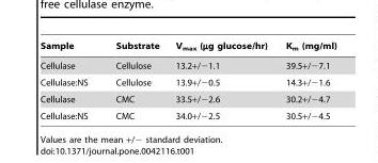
<table><thead><tr><td>Sample</td><td>Substrate</td><td>V<sub>max</sub> (µg glucose/hr)</td><td>K<sub>m</sub> (mg/ml)</td></tr></thead><tbody><tr><td>Cellulase</td><td>Cellulose</td><td>13.2+/−1.1</td><td>39.5+/−7.1</td></tr><tr><td>Cellulase:NS</td><td>Cellulose</td><td>13.9+/−0.5</td><td>14.3+/−1.6</td></tr><tr><td>Cellulase</td><td>CMC</td><td>33.5+/−2.6</td><td>30.2+/−4.7</td></tr><tr><td>Cellulase:NS</td><td>CMC</td><td>34.0+/−2.5</td><td>30.5+/−4.5</td></tr></tbody></table>